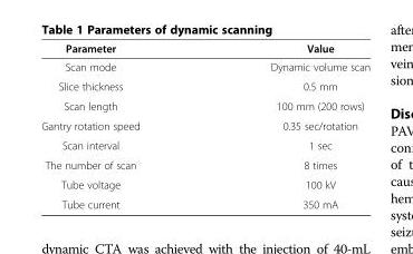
<table><thead><tr><td>Parameter</td><td>Value</td></tr></thead><tbody><tr><td>Scan mode</td><td>Dynamic volume scan</td></tr><tr><td>Slice thickness</td><td>0.5 mm</td></tr><tr><td>Scan length</td><td>100 mm (200 rows)</td></tr><tr><td>Gantry rotation speed</td><td>0.35 sec/rotation</td></tr><tr><td>Scan interval</td><td>1 sec</td></tr><tr><td>The number of scan</td><td>8 times</td></tr><tr><td>Tube voltage</td><td>100 kV</td></tr><tr><td>Tube current</td><td>350 mA</td></tr></tbody></table>